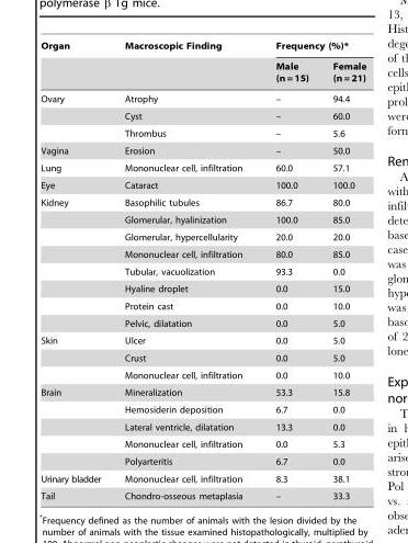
<table><thead><tr><td rowspan="2">Organ</td><td rowspan="2">Macroscopic Finding</td><td colspan="2">Frequency (%)*</td></tr><tr><td>Male (n = 15)</td><td>Female (n = 21)</td></tr></thead><tbody><tr><td rowspan="3">Ovary</td><td>Atrophy</td><td>–</td><td>94.4</td></tr><tr><td>Cyst</td><td>–</td><td>60.0</td></tr><tr><td>Thrombus</td><td>–</td><td>5.6</td></tr><tr><td>Vagina</td><td>Erosion</td><td>–</td><td>50.0</td></tr><tr><td>Lung</td><td>Mononuclear cell, infiltration</td><td>60.0</td><td>57.1</td></tr><tr><td>Eye</td><td>Cataract</td><td>100.0</td><td>100.0</td></tr><tr><td rowspan="8">Kidney</td><td>Basophilic tubules</td><td>86.7</td><td>80.0</td></tr><tr><td>Glomerular, hyalinization</td><td>100.0</td><td>85.0</td></tr><tr><td>Glomerular, hypercellularity</td><td>20.0</td><td>20.0</td></tr><tr><td>Mononuclear cell, infiltration</td><td>80.0</td><td>85.0</td></tr><tr><td>Tubular, vacuolization</td><td>93.3</td><td>0.0</td></tr><tr><td>Hyaline droplet</td><td>0.0</td><td>15.0</td></tr><tr><td>Protein cast</td><td>0.0</td><td>10.0</td></tr><tr><td>Pelvic, dilatation</td><td>0.0</td><td>5.0</td></tr><tr><td rowspan="3">Skin</td><td>Ulcer</td><td>0.0</td><td>5.0</td></tr><tr><td>Crust</td><td>0.0</td><td>5.0</td></tr><tr><td>Mononuclear cell, infiltration</td><td>0.0</td><td>10.0</td></tr><tr><td rowspan="5">Brain</td><td>Mineralization</td><td>53.3</td><td>15.8</td></tr><tr><td>Hemosiderin deposition</td><td>6.7</td><td>0.0</td></tr><tr><td>Lateral ventricle, dilatation</td><td>13.3</td><td>0.0</td></tr><tr><td>Mononuclear cell, infiltration</td><td>0.0</td><td>5.3</td></tr><tr><td>Polyarteritis</td><td>6.7</td><td>0.0</td></tr><tr><td>Urinary bladder</td><td>Mononuclear cell, infiltration</td><td>8.3</td><td>38.1</td></tr><tr><td>Tail</td><td>Chondro-osseous metaplasia</td><td>–</td><td>33.3</td></tr></tbody></table>